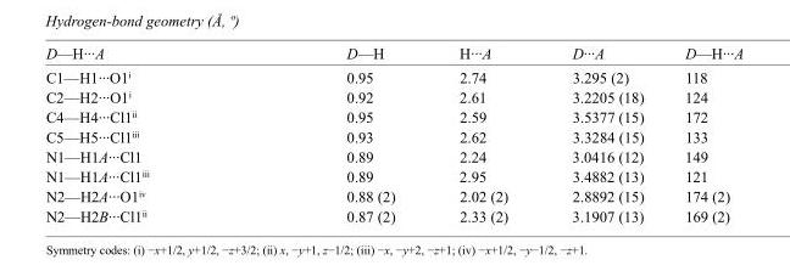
<table><tbody><tr><td>D—H···A</td><td>D—H</td><td>H···A</td><td>D···A</td><td>D—H···A</td></tr><tr><td>C1—H1···O1<sup>i</sup></td><td>0.95</td><td>2.74</td><td>3.295 (2)</td><td>118</td></tr><tr><td>C2—H2···O1<sup>i</sup></td><td>0.92</td><td>2.61</td><td>3.2205 (18)</td><td>124</td></tr><tr><td>C4—H4···Cl1<sup>ii</sup></td><td>0.95</td><td>2.59</td><td>3.5377 (15)</td><td>172</td></tr><tr><td>C5—H5···Cl1<sup>iii</sup></td><td>0.93</td><td>2.62</td><td>3.3284 (15)</td><td>133</td></tr><tr><td>N1—H1A···Cl1</td><td>0.89</td><td>2.24</td><td>3.0416 (12)</td><td>149</td></tr><tr><td>N1—H1A···Cl1<sup>iii</sup></td><td>0.89</td><td>2.95</td><td>3.4882 (13)</td><td>121</td></tr><tr><td>N2—H2A···O1<sup>iv</sup></td><td>0.88 (2)</td><td>2.02 (2)</td><td>2.8892 (15)</td><td>174 (2)</td></tr><tr><td>N2—H2B···Cl1<sup>ii</sup></td><td>0.87 (2)</td><td>2.33 (2)</td><td>3.1907 (13)</td><td>169 (2)</td></tr></tbody></table>